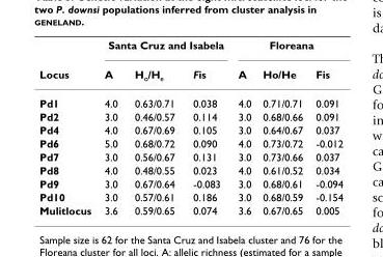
<table><thead><tr><td rowspan="2">Locus</td><td colspan="3">Santa Cruz and Isabela</td><td colspan="3">Floreana</td></tr><tr><td>A</td><td>H<sub>o</sub>/H<sub>e</sub></td><td>Fis</td><td>A</td><td>Ho/He</td><td>Fis</td></tr></thead><tbody><tr><td>Pd1</td><td>4.0</td><td>0.63/0.71</td><td>0.038</td><td>4.0</td><td>0.71/0.71</td><td>0.091</td></tr><tr><td>Pd2</td><td>3.0</td><td>0.46/0.57</td><td>0.114</td><td>3.0</td><td>0.68/0.66</td><td>0.091</td></tr><tr><td>Pd4</td><td>4.0</td><td>0.67/0.69</td><td>0.105</td><td>3.0</td><td>0.64/0.67</td><td>0.037</td></tr><tr><td>Pd6</td><td>5.0</td><td>0.68/0.72</td><td>0.090</td><td>4.0</td><td>0.73/0.72</td><td>-0.012</td></tr><tr><td>Pd7</td><td>3.0</td><td>0.56/0.67</td><td>0.131</td><td>3.0</td><td>0.73/0.66</td><td>0.037</td></tr><tr><td>Pd8</td><td>4.0</td><td>0.48/0.55</td><td>0.023</td><td>4.0</td><td>0.61/0.52</td><td>0.034</td></tr><tr><td>Pd9</td><td>3.0</td><td>0.67/0.64</td><td>-0.083</td><td>3.0</td><td>0.68/0.61</td><td>-0.094</td></tr><tr><td>Pd10</td><td>3.0</td><td>0.57/0.61</td><td>0.186</td><td>3.0</td><td>0.68/0.59</td><td>-0.154</td></tr><tr><td>Mulitlocus</td><td>3.6</td><td>0.59/0.65</td><td>0.074</td><td>3.6</td><td>0.67/0.65</td><td>0.005</td></tr></tbody></table>